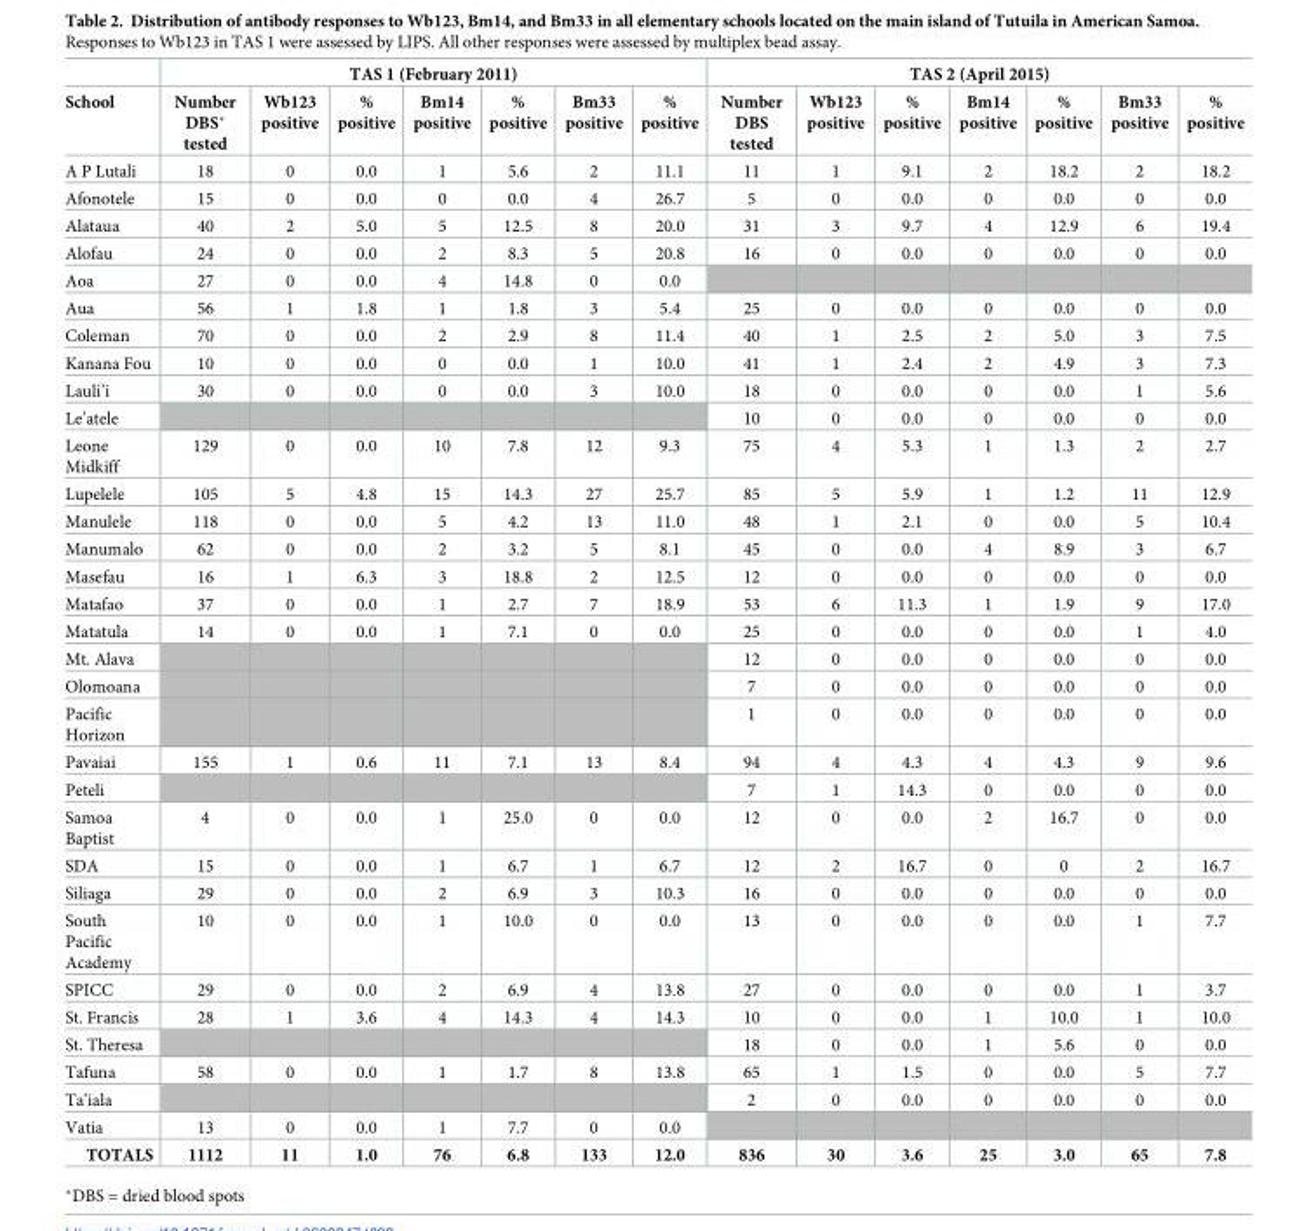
<table><thead><tr><td rowspan="2">School</td><td colspan="7">TAS 1 (February 2011)</td><td colspan="7">TAS 2 (April 2015)</td></tr><tr><td>Number DBS* tested</td><td>Wb123 positive</td><td>% positive</td><td>Bm14 positive</td><td>% positive</td><td>Bm33 positive</td><td>% positive</td><td>Number DBS tested</td><td>Wb123 positive</td><td>% positive</td><td>Bm14 positive</td><td>% positive</td><td>Bm33 positive</td><td>% positive</td></tr></thead><tbody><tr><td>A P Lutali</td><td>18</td><td>0</td><td>0.0</td><td>1</td><td>5.6</td><td>2</td><td>11.1</td><td>11</td><td>1</td><td>9.1</td><td>2</td><td>18.2</td><td>2</td><td>18.2</td></tr><tr><td>Afonotele</td><td>15</td><td>0</td><td>0.0</td><td>0</td><td>0.0</td><td>4</td><td>26.7</td><td>5</td><td>0</td><td>0.0</td><td>0</td><td>0.0</td><td>0</td><td>0.0</td></tr><tr><td>Alataua</td><td>40</td><td>2</td><td>5.0</td><td>5</td><td>12.5</td><td>8</td><td>20.0</td><td>31</td><td>3</td><td>9.7</td><td>4</td><td>12.9</td><td>6</td><td>19.4</td></tr><tr><td>Alofau</td><td>24</td><td>0</td><td>0.0</td><td>2</td><td>8.3</td><td>5</td><td>20.8</td><td>16</td><td>0</td><td>0.0</td><td>0</td><td>0.0</td><td>0</td><td>0.0</td></tr><tr><td>Aoa</td><td>27</td><td>0</td><td>0.0</td><td>4</td><td>14.8</td><td>0</td><td>0.0</td><td></td><td></td><td></td><td></td><td></td><td></td><td></td></tr><tr><td>Aua</td><td>56</td><td>1</td><td>1.8</td><td>1</td><td>1.8</td><td>3</td><td>5.4</td><td>25</td><td>0</td><td>0.0</td><td>0</td><td>0.0</td><td>0</td><td>0.0</td></tr><tr><td>Coleman</td><td>70</td><td>0</td><td>0.0</td><td>2</td><td>2.9</td><td>8</td><td>11.4</td><td>40</td><td>1</td><td>2.5</td><td>2</td><td>5.0</td><td>3</td><td>7.5</td></tr><tr><td>Kanana Fou</td><td>10</td><td>0</td><td>0.0</td><td>0</td><td>0.0</td><td>1</td><td>10.0</td><td>41</td><td>1</td><td>2.4</td><td>2</td><td>4.9</td><td>3</td><td>7.3</td></tr><tr><td>Lauli’i</td><td>30</td><td>0</td><td>0.0</td><td>0</td><td>0.0</td><td>3</td><td>10.0</td><td>18</td><td>0</td><td>0.0</td><td>0</td><td>0.0</td><td>1</td><td>5.6</td></tr><tr><td>Le’atele</td><td></td><td></td><td></td><td></td><td></td><td></td><td></td><td>10</td><td>0</td><td>0.0</td><td>0</td><td>0.0</td><td>0</td><td>0.0</td></tr><tr><td>Leone Midkiff</td><td>129</td><td>0</td><td>0.0</td><td>10</td><td>7.8</td><td>12</td><td>9.3</td><td>75</td><td>4</td><td>5.3</td><td>1</td><td>1.3</td><td>2</td><td>2.7</td></tr><tr><td>Lupelele</td><td>105</td><td>5</td><td>4.8</td><td>15</td><td>14.3</td><td>27</td><td>25.7</td><td>85</td><td>5</td><td>5.9</td><td>1</td><td>1.2</td><td>11</td><td>12.9</td></tr><tr><td>Manulele</td><td>118</td><td>0</td><td>0.0</td><td>5</td><td>4.2</td><td>13</td><td>11.0</td><td>48</td><td>1</td><td>2.1</td><td>0</td><td>0.0</td><td>5</td><td>10.4</td></tr><tr><td>Manumalo</td><td>62</td><td>0</td><td>0.0</td><td>2</td><td>3.2</td><td>5</td><td>8.1</td><td>45</td><td>0</td><td>0.0</td><td>4</td><td>8.9</td><td>3</td><td>6.7</td></tr><tr><td>Masefau</td><td>16</td><td>1</td><td>6.3</td><td>3</td><td>18.8</td><td>2</td><td>12.5</td><td>12</td><td>0</td><td>0.0</td><td>0</td><td>0.0</td><td>0</td><td>0.0</td></tr><tr><td>Matafao</td><td>37</td><td>0</td><td>0.0</td><td>1</td><td>2.7</td><td>7</td><td>18.9</td><td>53</td><td>6</td><td>11.3</td><td>1</td><td>1.9</td><td>9</td><td>17.0</td></tr><tr><td>Matatula</td><td>14</td><td>0</td><td>0.0</td><td>1</td><td>7.1</td><td>0</td><td>0.0</td><td>25</td><td>0</td><td>0.0</td><td>0</td><td>0.0</td><td>1</td><td>4.0</td></tr><tr><td>Mt. Alava</td><td></td><td></td><td></td><td></td><td></td><td></td><td></td><td>12</td><td>0</td><td>0.0</td><td>0</td><td>0.0</td><td>0</td><td>0.0</td></tr><tr><td>Olomoana</td><td></td><td></td><td></td><td></td><td></td><td></td><td></td><td>7</td><td>0</td><td>0.0</td><td>0</td><td>0.0</td><td>0</td><td>0.0</td></tr><tr><td>Pacific Horizon</td><td></td><td></td><td></td><td></td><td></td><td></td><td></td><td>1</td><td>0</td><td>0.0</td><td>0</td><td>0.0</td><td>0</td><td>0.0</td></tr><tr><td>Pavaiai</td><td>155</td><td>1</td><td>0.6</td><td>11</td><td>7.1</td><td>13</td><td>8.4</td><td>94</td><td>4</td><td>4.3</td><td>4</td><td>4.3</td><td>9</td><td>9.6</td></tr><tr><td>Peteli</td><td></td><td></td><td></td><td></td><td></td><td></td><td></td><td>7</td><td>1</td><td>14.3</td><td>0</td><td>0.0</td><td>0</td><td>0.0</td></tr><tr><td>Samoa Baptist</td><td>4</td><td>0</td><td>0.0</td><td>1</td><td>25.0</td><td>0</td><td>0.0</td><td>12</td><td>0</td><td>0.0</td><td>2</td><td>16.7</td><td>0</td><td>0.0</td></tr><tr><td>SDA</td><td>15</td><td>0</td><td>0.0</td><td>1</td><td>6.7</td><td>1</td><td>6.7</td><td>12</td><td>2</td><td>16.7</td><td>0</td><td>0</td><td>2</td><td>16.7</td></tr><tr><td>Siliaga</td><td>29</td><td>0</td><td>0.0</td><td>2</td><td>6.9</td><td>3</td><td>10.3</td><td>16</td><td>0</td><td>0.0</td><td>0</td><td>0.0</td><td>0</td><td>0.0</td></tr><tr><td>South Pacific Academy</td><td>10</td><td>0</td><td>0.0</td><td>1</td><td>10.0</td><td>0</td><td>0.0</td><td>13</td><td>0</td><td>0.0</td><td>0</td><td>0.0</td><td>1</td><td>7.7</td></tr><tr><td>SPICC</td><td>29</td><td>0</td><td>0.0</td><td>2</td><td>6.9</td><td>4</td><td>13.8</td><td>27</td><td>0</td><td>0.0</td><td>0</td><td>0.0</td><td>1</td><td>3.7</td></tr><tr><td>St. Francis</td><td>28</td><td>1</td><td>3.6</td><td>4</td><td>14.3</td><td>4</td><td>14.3</td><td>10</td><td>0</td><td>0.0</td><td>1</td><td>10.0</td><td>1</td><td>10.0</td></tr><tr><td>St. Theresa</td><td></td><td></td><td></td><td></td><td></td><td></td><td></td><td>18</td><td>0</td><td>0.0</td><td>1</td><td>5.6</td><td>0</td><td>0.0</td></tr><tr><td>Tafuna</td><td>58</td><td>0</td><td>0.0</td><td>1</td><td>1.7</td><td>8</td><td>13.8</td><td>65</td><td>1</td><td>1.5</td><td>0</td><td>0.0</td><td>5</td><td>7.7</td></tr><tr><td>Ta’iala</td><td></td><td></td><td></td><td></td><td></td><td></td><td></td><td>2</td><td>0</td><td>0.0</td><td>0</td><td>0.0</td><td>0</td><td>0.0</td></tr><tr><td>Vatia</td><td>13</td><td>0</td><td>0.0</td><td>1</td><td>7.7</td><td>0</td><td>0.0</td><td></td><td></td><td></td><td></td><td></td><td></td><td></td></tr><tr><td>TOTALS</td><td>1112</td><td>11</td><td>1.0</td><td>76</td><td>6.8</td><td>133</td><td>12.0</td><td>836</td><td>30</td><td>3.6</td><td>25</td><td>3.0</td><td>65</td><td>7.8</td></tr></tbody></table>